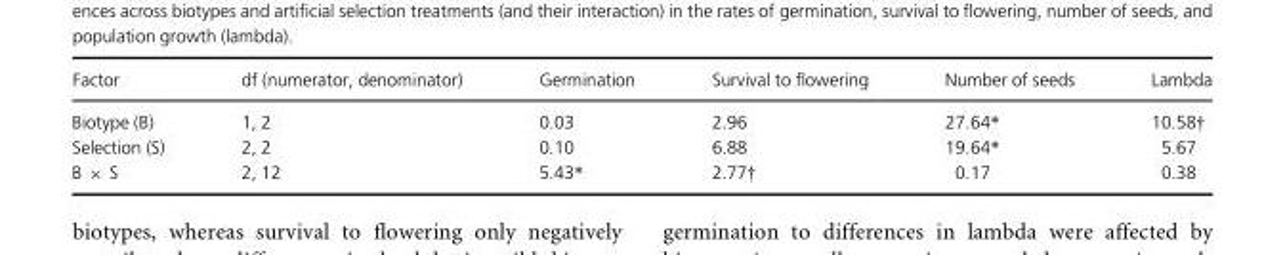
<table><thead><tr><td>Factor</td><td>df (numerator, denominator)</td><td>Germination</td><td>Survival to flowering</td><td>Number of seeds</td><td>Lambda</td></tr></thead><tbody><tr><td>Biotype (B)</td><td>1, 2</td><td>0.03</td><td>2.96</td><td>27.64*</td><td>10.58†</td></tr><tr><td>Selection (S)</td><td>2, 2</td><td>0.10</td><td>6.88</td><td>19.64*</td><td>5.67</td></tr><tr><td>B × S</td><td>2, 12</td><td>5.43*</td><td>2.77†</td><td>0.17</td><td>0.38</td></tr></tbody></table>